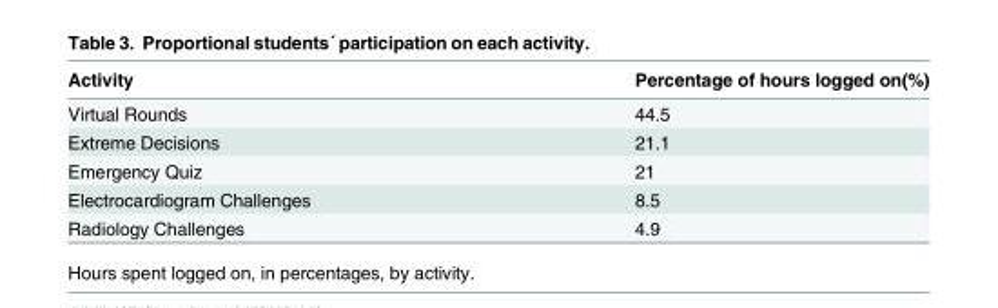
<table><thead><tr><td>Activity</td><td>Percentage of hours logged on(%)</td></tr></thead><tbody><tr><td>Virtual Rounds</td><td>44.5</td></tr><tr><td>Extreme Decisions</td><td>21.1</td></tr><tr><td>Emergency Quiz</td><td>21</td></tr><tr><td>Electrocardiogram Challenges</td><td>8.5</td></tr><tr><td>Radiology Challenges</td><td>4.9</td></tr></tbody></table>